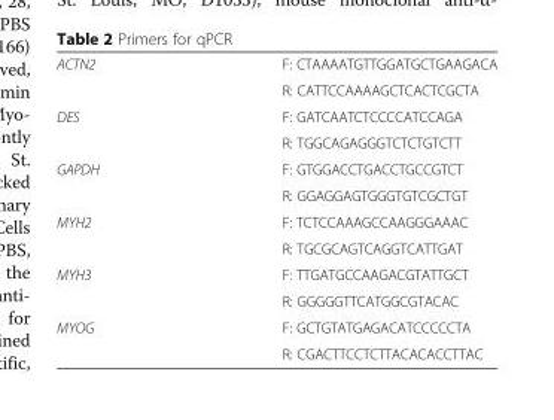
<table><tbody><tr><td rowspan="2">ACTN2</td><td>F: CTAAAATGTTGGATGCTGAAGACA</td></tr><tr><td>R: CATTCCAAAAGCTCACTCGCTA</td></tr><tr><td rowspan="2">DES</td><td>F: GATCAATCTCCCCATCCAGA</td></tr><tr><td>R: TGGCAGAGGGTCTCTGTCTT</td></tr><tr><td rowspan="2">GAPDH</td><td>F: GTGGACCTGACCTGCCGTCT</td></tr><tr><td>R: GGAGGAGTGGGTGTCGCTGT</td></tr><tr><td rowspan="2">MYH2</td><td>F: TCTCCAAAGCCAAGGGAAAC</td></tr><tr><td>R: TGCGCAGTCAGGTCATTGAT</td></tr><tr><td rowspan="2">MYH3</td><td>F: TTGATGCCAAGACGTATTGCT</td></tr><tr><td>R: GGGGGTTCATGGCGTACAC</td></tr><tr><td rowspan="2">MYOG</td><td>F: GCTGTATGAGACATCCCCCTA</td></tr><tr><td>R: CGACTTCCTCTTACACACCTTAC</td></tr></tbody></table>